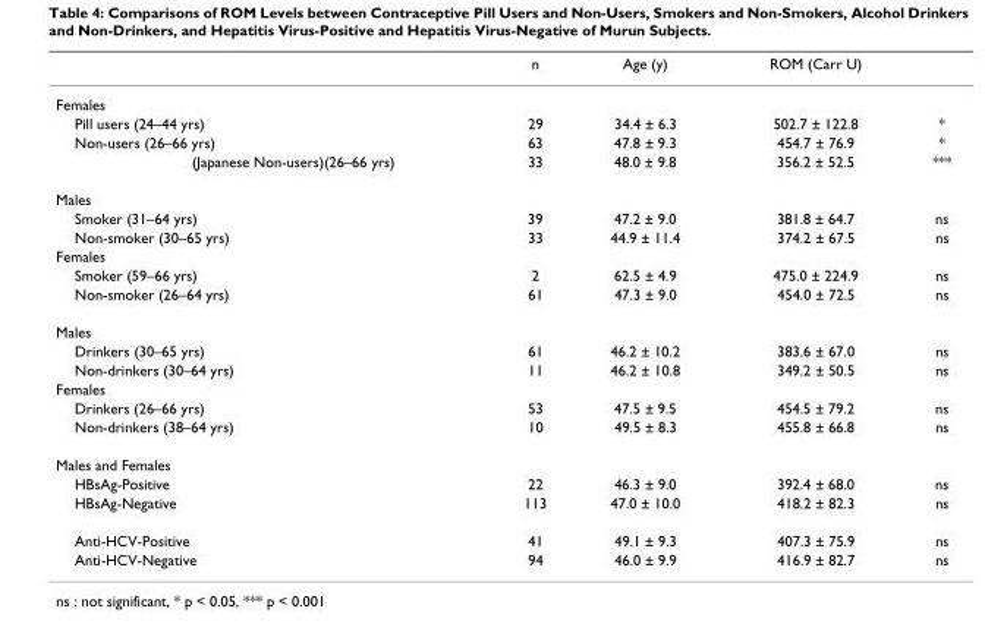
<table><thead><tr><td></td><td>n</td><td>Age (y)</td><td>ROM (Carr U)</td><td></td></tr></thead><tbody><tr><td colspan="5">Females</td></tr><tr><td>Pill users (24–44 yrs)</td><td>29</td><td>34.4 ± 6.3</td><td>502.7 ± 122.8</td><td>*</td></tr><tr><td>Non-users (26–66 yrs)</td><td>63</td><td>47.8 ± 9.3</td><td>454.7 ± 76.9</td><td>*</td></tr><tr><td>(Japanese Non-users)(26–66 yrs)</td><td>33</td><td>48.0 ± 9.8</td><td>356.2 ± 52.5</td><td>***</td></tr><tr><td colspan="5">Males</td></tr><tr><td>Smoker (31–64 yrs)</td><td>39</td><td>47.2 ± 9.0</td><td>381.8 ± 64.7</td><td>ns</td></tr><tr><td>Non-smoker (30–65 yrs)</td><td>33</td><td>44.9 ± 11.4</td><td>374.2 ± 67.5</td><td>ns</td></tr><tr><td colspan="5">Females</td></tr><tr><td>Smoker (59–66 yrs)</td><td>2</td><td>62.5 ± 4.9</td><td>475.0 ± 224.9</td><td>ns</td></tr><tr><td>Non-smoker (26–64 yrs)</td><td>61</td><td>47.3 ± 9.0</td><td>454.0 ± 72.5</td><td>ns</td></tr><tr><td colspan="5">Males</td></tr><tr><td>Drinkers (30–65 yrs)</td><td>61</td><td>46.2 ± 10.2</td><td>383.6 ± 67.0</td><td>ns</td></tr><tr><td>Non-drinkers (30–64 yrs)</td><td>11</td><td>46.2 ± 10.8</td><td>349.2 ± 50.5</td><td>ns</td></tr><tr><td colspan="5">Females</td></tr><tr><td>Drinkers (26–66 yrs)</td><td>53</td><td>47.5 ± 9.5</td><td>454.5 ± 79.2</td><td>ns</td></tr><tr><td>Non-drinkers (38–64 yrs)</td><td>10</td><td>49.5 ± 8.3</td><td>455.8 ± 66.8</td><td>ns</td></tr><tr><td colspan="5">Males and Females</td></tr><tr><td>HBsAg-Positive</td><td>22</td><td>46.3 ± 9.0</td><td>392.4 ± 68.0</td><td>ns</td></tr><tr><td>HBsAg-Negative</td><td>113</td><td>47.0 ± 10.0</td><td>418.2 ± 82.3</td><td>ns</td></tr><tr><td>Anti-HCV-Positive</td><td>41</td><td>49.1 ± 9.3</td><td>407.3 ± 75.9</td><td>ns</td></tr><tr><td>Anti-HCV-Negative</td><td>94</td><td>46.0 ± 9.9</td><td>416.9 ± 82.7</td><td>ns</td></tr></tbody></table>